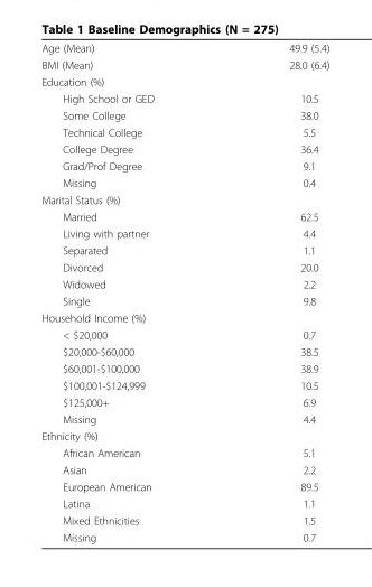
<table><tbody><tr><td>Age (Mean)</td><td>49.9 (5.4)</td></tr><tr><td>BMI (Mean)</td><td>28.0 (6.4)</td></tr><tr><td colspan="2">Education (%)</td></tr><tr><td>High School or GED</td><td>10.5</td></tr><tr><td>Some College</td><td>38.0</td></tr><tr><td>Technical College</td><td>5.5</td></tr><tr><td>College Degree</td><td>36.4</td></tr><tr><td>Grad/Prof Degree</td><td>9.1</td></tr><tr><td>Missing</td><td>0.4</td></tr><tr><td colspan="2">Marital Status (%)</td></tr><tr><td>Married</td><td>62.5</td></tr><tr><td>Living with partner</td><td>4.4</td></tr><tr><td>Separated</td><td>1.1</td></tr><tr><td>Divorced</td><td>20.0</td></tr><tr><td>Widowed</td><td>2.2</td></tr><tr><td>Single</td><td>9.8</td></tr><tr><td colspan="2">Household Income (%)</td></tr><tr><td>&lt; $20,000</td><td>0.7</td></tr><tr><td>$20,000-$60,000</td><td>38.5</td></tr><tr><td>$60,001-$100,000</td><td>38.9</td></tr><tr><td>$100,001-$124,999</td><td>10.5</td></tr><tr><td>$125,000+</td><td>6.9</td></tr><tr><td>Missing</td><td>4.4</td></tr><tr><td colspan="2">Ethnicity (%)</td></tr><tr><td>African American</td><td>5.1</td></tr><tr><td>Asian</td><td>2.2</td></tr><tr><td>European American</td><td>89.5</td></tr><tr><td>Latina</td><td>1.1</td></tr><tr><td>Mixed Ethnicities</td><td>1.5</td></tr><tr><td>Missing</td><td>0.7</td></tr></tbody></table>